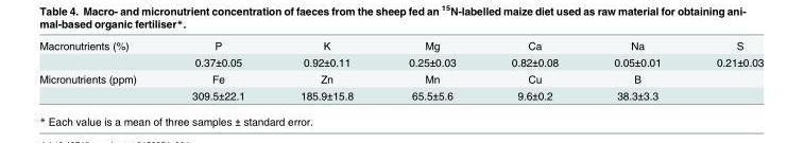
<table><tbody><tr><td rowspan="2">Macronutrients (%)</td><td>P</td><td>K</td><td>Mg</td><td>Ca</td><td>Na</td><td>S</td></tr><tr><td>0.37±0.05</td><td>0.92±0.11</td><td>0.25±0.03</td><td>0.82±0.08</td><td>0.05±0.01</td><td>0.21±0.03</td></tr><tr><td rowspan="2">Micronutrients (ppm)</td><td>Fe</td><td>Zn</td><td>Mn</td><td>Cu</td><td>B</td><td></td></tr><tr><td>309.5±22.1</td><td>185.9±15.8</td><td>65.5±5.6</td><td>9.6±0.2</td><td>38.3±3.3</td><td></td></tr></tbody></table>